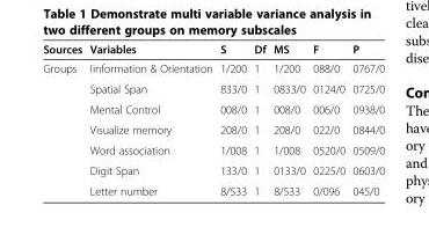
<table><thead><tr><td>Sources</td><td>Variables</td><td>S</td><td>Df</td><td>MS</td><td>F</td><td>P</td></tr></thead><tbody><tr><td rowspan="7">Groups</td><td>Iinformation &amp; Orientation</td><td>1/200</td><td>1</td><td>1/200</td><td>088/0</td><td>0767/0</td></tr><tr><td>Spatial Span</td><td>833/0</td><td>1</td><td>0833/0</td><td>0124/0</td><td>0725/0</td></tr><tr><td>Mental Control</td><td>008/0</td><td>1</td><td>008/0</td><td>006/0</td><td>0938/0</td></tr><tr><td>Visualize memory</td><td>208/0</td><td>1</td><td>208/0</td><td>022/0</td><td>0844/0</td></tr><tr><td>Word association</td><td>1/008</td><td>1</td><td>1/008</td><td>0520/0</td><td>0509/0</td></tr><tr><td>Digit Span</td><td>133/0</td><td>1</td><td>0133/0</td><td>0225/0</td><td>0603/0</td></tr><tr><td>Letter number</td><td>8/533</td><td>1</td><td>8/533</td><td>0/096</td><td>045/0</td></tr></tbody></table>